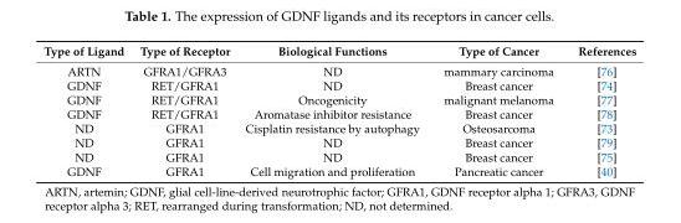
<table><thead><tr><td>Type of Ligand</td><td>Type of Receptor</td><td>Biological Functions</td><td>Type of Cancer</td><td>References</td></tr></thead><tbody><tr><td>ARTN</td><td>GFRA1/GFRA3</td><td>ND</td><td>mammary carcinoma</td><td>[76]</td></tr><tr><td>GDNF</td><td>RET/GFRA1</td><td>ND</td><td>Breast cancer</td><td>[74]</td></tr><tr><td>GDNF</td><td>RET/GFRA1</td><td>Oncogenicity</td><td>malignant melanoma</td><td>[77]</td></tr><tr><td>GDNF</td><td>RET/GFRA1</td><td>Aromatase inhibitor resistance</td><td>Breast cancer</td><td>[78]</td></tr><tr><td>ND</td><td>GFRA1</td><td>Cisplatin resistance by autophagy</td><td>Osteosarcoma</td><td>[73]</td></tr><tr><td>ND</td><td>GFRA1</td><td>ND</td><td>Breast cancer</td><td>[79]</td></tr><tr><td>ND</td><td>GFRA1</td><td>ND</td><td>Breast cancer</td><td>[75]</td></tr><tr><td>GDNF</td><td>GFRA1</td><td>Cell migration and proliferation</td><td>Pancreatic cancer</td><td>[40]</td></tr></tbody></table>